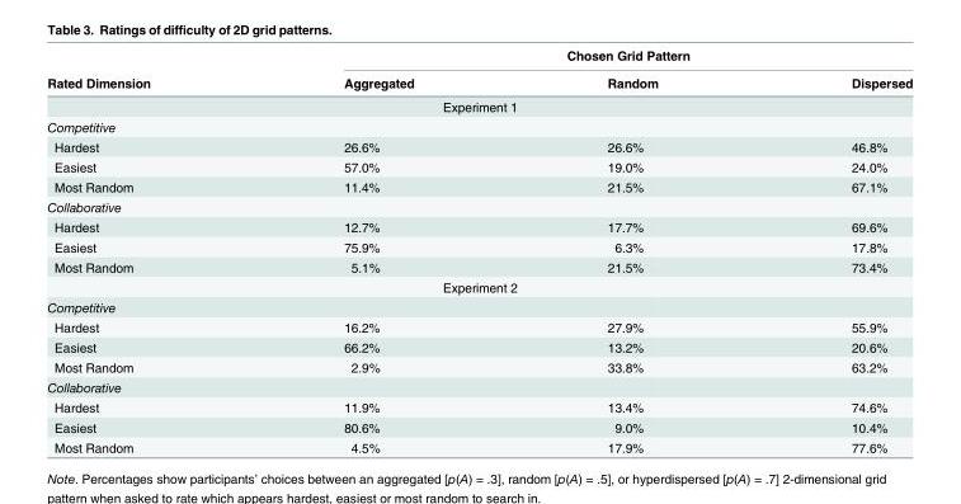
<table><thead><tr><td rowspan="2">Rated Dimension</td><td colspan="3">Chosen Grid Pattern</td></tr><tr><td>Aggregated</td><td>Random</td><td>Dispersed</td></tr></thead><tbody><tr><td colspan="4">Experiment 1</td></tr><tr><td colspan="4">Competitive</td></tr><tr><td>Hardest</td><td>26.6%</td><td>26.6%</td><td>46.8%</td></tr><tr><td>Easiest</td><td>57.0%</td><td>19.0%</td><td>24.0%</td></tr><tr><td>Most Random</td><td>11.4%</td><td>21.5%</td><td>67.1%</td></tr><tr><td colspan="4">Collaborative</td></tr><tr><td>Hardest</td><td>12.7%</td><td>17.7%</td><td>69.6%</td></tr><tr><td>Easiest</td><td>75.9%</td><td>6.3%</td><td>17.8%</td></tr><tr><td>Most Random</td><td>5.1%</td><td>21.5%</td><td>73.4%</td></tr><tr><td colspan="4">Experiment 2</td></tr><tr><td colspan="4">Competitive</td></tr><tr><td>Hardest</td><td>16.2%</td><td>27.9%</td><td>55.9%</td></tr><tr><td>Easiest</td><td>66.2%</td><td>13.2%</td><td>20.6%</td></tr><tr><td>Most Random</td><td>2.9%</td><td>33.8%</td><td>63.2%</td></tr><tr><td colspan="4">Collaborative</td></tr><tr><td>Hardest</td><td>11.9%</td><td>13.4%</td><td>74.6%</td></tr><tr><td>Easiest</td><td>80.6%</td><td>9.0%</td><td>10.4%</td></tr><tr><td>Most Random</td><td>4.5%</td><td>17.9%</td><td>77.6%</td></tr></tbody></table>